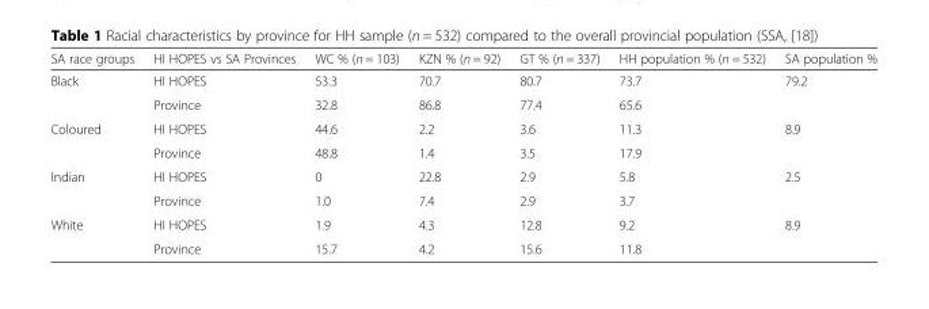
<table><thead><tr><td>SA race groups</td><td>HI HOPES vs SA Provinces</td><td>WC % (n = 103)</td><td>KZN % (n = 92)</td><td>GT % (n = 337)</td><td>HH population % (n = 532)</td><td>SA population %</td></tr></thead><tbody><tr><td rowspan="2">Black</td><td>HI HOPES</td><td>53.3</td><td>70.7</td><td>80.7</td><td>73.7</td><td rowspan="2">79.2</td></tr><tr><td>Province</td><td>32.8</td><td>86.8</td><td>77.4</td><td>65.6</td></tr><tr><td rowspan="2">Coloured</td><td>HI HOPES</td><td>44.6</td><td>2.2</td><td>3.6</td><td>11.3</td><td rowspan="2">8.9</td></tr><tr><td>Province</td><td>48.8</td><td>1.4</td><td>3.5</td><td>17.9</td></tr><tr><td rowspan="2">Indian</td><td>HI HOPES</td><td>0</td><td>22.8</td><td>2.9</td><td>5.8</td><td rowspan="2">2.5</td></tr><tr><td>Province</td><td>1.0</td><td>7.4</td><td>2.9</td><td>3.7</td></tr><tr><td rowspan="2">White</td><td>HI HOPES</td><td>1.9</td><td>4.3</td><td>12.8</td><td>9.2</td><td rowspan="2">8.9</td></tr><tr><td>Province</td><td>15.7</td><td>4.2</td><td>15.6</td><td>11.8</td></tr></tbody></table>